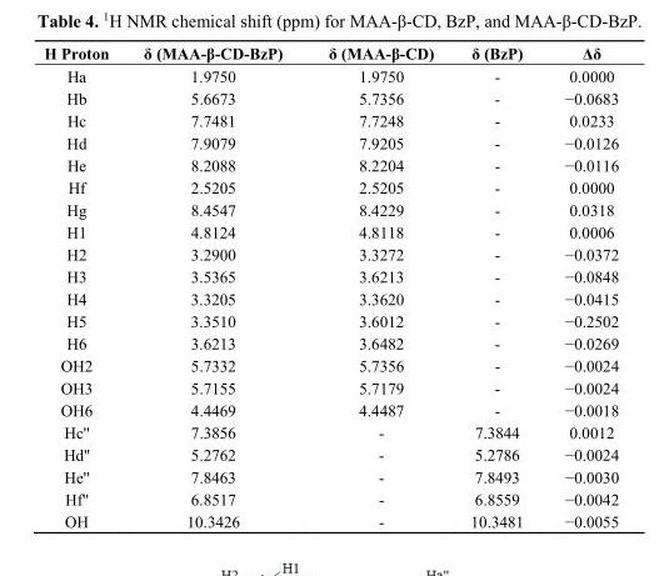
<table><thead><tr><td>H Proton</td><td>δ (MAA-β-CD-BzP)</td><td>δ (MAA-β-CD)</td><td>δ (BzP)</td><td>Δδ</td></tr></thead><tbody><tr><td>Ha</td><td>1.9750</td><td>1.9750</td><td>-</td><td>0.0000</td></tr><tr><td>Hb</td><td>5.6673</td><td>5.7356</td><td>-</td><td>−0.0683</td></tr><tr><td>Hc</td><td>7.7481</td><td>7.7248</td><td>-</td><td>0.0233</td></tr><tr><td>Hd</td><td>7.9079</td><td>7.9205</td><td>-</td><td>−0.0126</td></tr><tr><td>He</td><td>8.2088</td><td>8.2204</td><td>-</td><td>−0.0116</td></tr><tr><td>Hf</td><td>2.5205</td><td>2.5205</td><td>-</td><td>0.0000</td></tr><tr><td>Hg</td><td>8.4547</td><td>8.4229</td><td>-</td><td>0.0318</td></tr><tr><td>H1</td><td>4.8124</td><td>4.8118</td><td>-</td><td>0.0006</td></tr><tr><td>H2</td><td>3.2900</td><td>3.3272</td><td>-</td><td>−0.0372</td></tr><tr><td>H3</td><td>3.5365</td><td>3.6213</td><td>-</td><td>−0.0848</td></tr><tr><td>H4</td><td>3.3205</td><td>3.3620</td><td>-</td><td>−0.0415</td></tr><tr><td>H5</td><td>3.3510</td><td>3.6012</td><td>-</td><td>−0.2502</td></tr><tr><td>H6</td><td>3.6213</td><td>3.6482</td><td>-</td><td>−0.0269</td></tr><tr><td>OH2</td><td>5.7332</td><td>5.7356</td><td>-</td><td>−0.0024</td></tr><tr><td>OH3</td><td>5.7155</td><td>5.7179</td><td>-</td><td>−0.0024</td></tr><tr><td>OH6</td><td>4.4469</td><td>4.4487</td><td>-</td><td>−0.0018</td></tr><tr><td>Hc&#x27;&#x27;</td><td>7.3856</td><td>-</td><td>7.3844</td><td>0.0012</td></tr><tr><td>Hd&#x27;&#x27;</td><td>5.2762</td><td>-</td><td>5.2786</td><td>−0.0024</td></tr><tr><td>He&#x27;&#x27;</td><td>7.8463</td><td>-</td><td>7.8493</td><td>−0.0030</td></tr><tr><td>Hf&#x27;&#x27;</td><td>6.8517</td><td>-</td><td>6.8559</td><td>−0.0042</td></tr><tr><td>OH</td><td>10.3426</td><td>-</td><td>10.3481</td><td>−0.0055</td></tr></tbody></table>